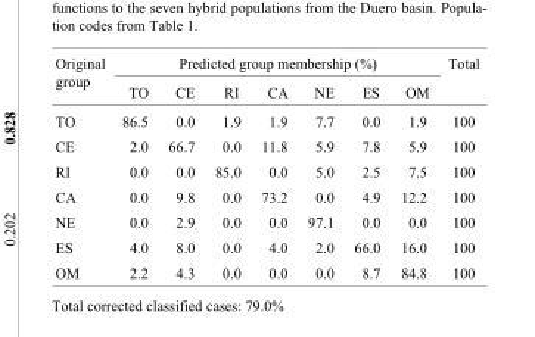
<table><thead><tr><td rowspan="2">Original group</td><td colspan="7">Predicted group membership (%)</td><td rowspan="2">Total</td></tr><tr><td>TO</td><td>CE</td><td>RI</td><td>CA</td><td>NE</td><td>ES</td><td>OM</td></tr></thead><tbody><tr><td>TO</td><td>86.5</td><td>0.0</td><td>1.9</td><td>1.9</td><td>7.7</td><td>0.0</td><td>1.9</td><td>100</td></tr><tr><td>CE</td><td>2.0</td><td>66.7</td><td>0.0</td><td>11.8</td><td>5.9</td><td>7.8</td><td>5.9</td><td>100</td></tr><tr><td>RI</td><td>0.0</td><td>0.0</td><td>85.0</td><td>0.0</td><td>5.0</td><td>2.5</td><td>7.5</td><td>100</td></tr><tr><td>CA</td><td>0.0</td><td>9.8</td><td>0.0</td><td>73.2</td><td>0.0</td><td>4.9</td><td>12.2</td><td>100</td></tr><tr><td>NE</td><td>0.0</td><td>2.9</td><td>0.0</td><td>0.0</td><td>97.1</td><td>0.0</td><td>0.0</td><td>100</td></tr><tr><td>ES</td><td>4.0</td><td>8.0</td><td>0.0</td><td>4.0</td><td>2.0</td><td>66.0</td><td>16.0</td><td>100</td></tr><tr><td>OM</td><td>2.2</td><td>4.3</td><td>0.0</td><td>0.0</td><td>0.0</td><td>8.7</td><td>84.8</td><td>100</td></tr></tbody></table>